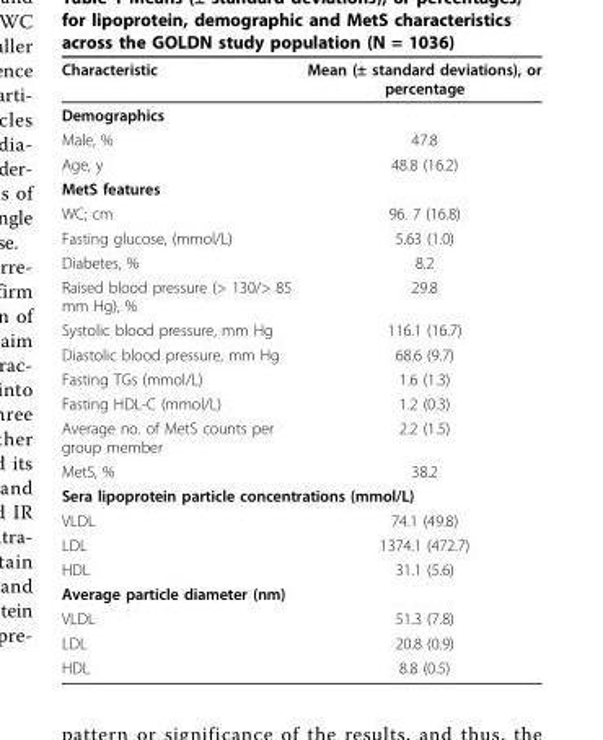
<table><thead><tr><td>Characteristic</td><td>Mean (± standard deviations), or percentage</td></tr></thead><tbody><tr><td colspan="2">Demographics</td></tr><tr><td>Male, %</td><td>47.8</td></tr><tr><td>Age, y</td><td>48.8 (16.2)</td></tr><tr><td colspan="2">MetS features</td></tr><tr><td>WC; cm</td><td>96. 7 (16.8)</td></tr><tr><td>Fasting glucose, (mmol/L)</td><td>5.63 (1.0)</td></tr><tr><td>Diabetes, %</td><td>8.2</td></tr><tr><td>Raised blood pressure (&gt; 130/&gt; 85 mm Hg), %</td><td>29.8</td></tr><tr><td>Systolic blood pressure, mm Hg</td><td>116.1 (16.7)</td></tr><tr><td>Diastolic blood pressure, mm Hg</td><td>68.6 (9.7)</td></tr><tr><td>Fasting TGs (mmol/L)</td><td>1.6 (1.3)</td></tr><tr><td>Fasting HDL-C (mmol/L)</td><td>1.2 (0.3)</td></tr><tr><td>Average no. of MetS counts per group member</td><td>2.2 (1.5)</td></tr><tr><td>MetS, %</td><td>38.2</td></tr><tr><td colspan="2">Sera lipoprotein particle concentrations (mmol/L)</td></tr><tr><td>VLDL</td><td>74.1 (49.8)</td></tr><tr><td>LDL</td><td>1374.1 (472.7)</td></tr><tr><td>HDL</td><td>31.1 (5.6)</td></tr><tr><td colspan="2">Average particle diameter (nm)</td></tr><tr><td>VLDL</td><td>51.3 (7.8)</td></tr><tr><td>LDL</td><td>20.8 (0.9)</td></tr><tr><td>HDL</td><td>8.8 (0.5)</td></tr></tbody></table>